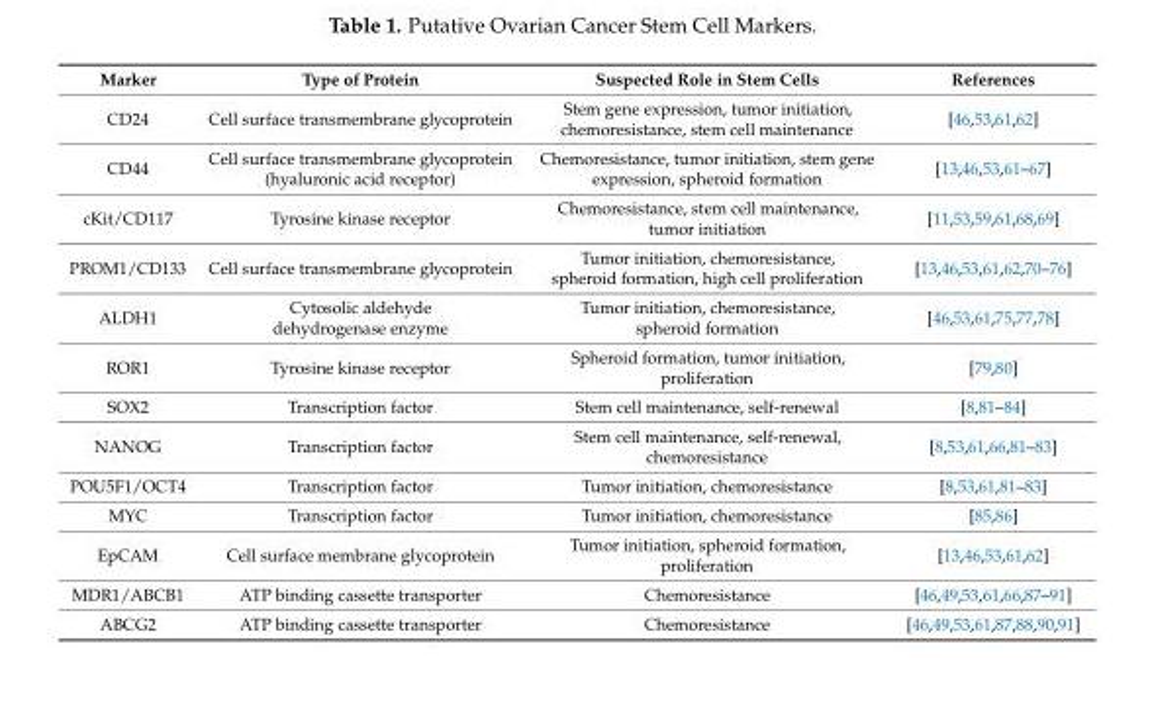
<table><thead><tr><td>Marker</td><td>Type of Protein</td><td>Suspected Role in Stem Cells</td><td>References</td></tr></thead><tbody><tr><td>CD24</td><td>Cell surface transmembrane glycoprotein</td><td>Stem gene expression, tumor initiation, chemoresistance, stem cell maintenance</td><td>[46,53,61,62]</td></tr><tr><td>CD44</td><td>Cell surface transmembrane glycoprotein (hyaluronic acid receptor)</td><td>Chemoresistance, tumor initiation, stem gene expression, spheroid formation</td><td>[13,46,53,61–67]</td></tr><tr><td>cKit/CD117</td><td>Tyrosine kinase receptor</td><td>Chemoresistance, stem cell maintenance, tumor initiation</td><td>[11,53,59,61,68,69]</td></tr><tr><td>PROM1/CD133</td><td>Cell surface transmembrane glycoprotein</td><td>Tumor initiation, chemoresistance, spheroid formation, high cell proliferation</td><td>[13,46,53,61,62,70–76]</td></tr><tr><td>ALDH1</td><td>Cytosolic aldehyde dehydrogenase enzyme</td><td>Tumor initiation, chemoresistance, spheroid formation</td><td>[46,53,61,75,77,78]</td></tr><tr><td>ROR1</td><td>Tyrosine kinase receptor</td><td>Spheroid formation, tumor initiation, proliferation</td><td>[79,80]</td></tr><tr><td>SOX2</td><td>Transcription factor</td><td>Stem cell maintenance, self-renewal</td><td>[8,81–84]</td></tr><tr><td>NANOG</td><td>Transcription factor</td><td>Stem cell maintenance, self-renewal, chemoresistance</td><td>[8,53,61,66,81–83]</td></tr><tr><td>POU5F1/OCT4</td><td>Transcription factor</td><td>Tumor initiation, chemoresistance</td><td>[8,53,61,81–83]</td></tr><tr><td>MYC</td><td>Transcription factor</td><td>Tumor initiation, chemoresistance</td><td>[85,86]</td></tr><tr><td>EpCAM</td><td>Cell surface membrane glycoprotein</td><td>Tumor initiation, spheroid formation, proliferation</td><td>[13,46,53,61,62]</td></tr><tr><td>MDR1/ABCB1</td><td>ATP binding cassette transporter</td><td>Chemoresistance</td><td>[46,49,53,61,66,87–91]</td></tr><tr><td>ABCG2</td><td>ATP binding cassette transporter</td><td>Chemoresistance</td><td>[46,49,53,61,87,88,90,91]</td></tr></tbody></table>